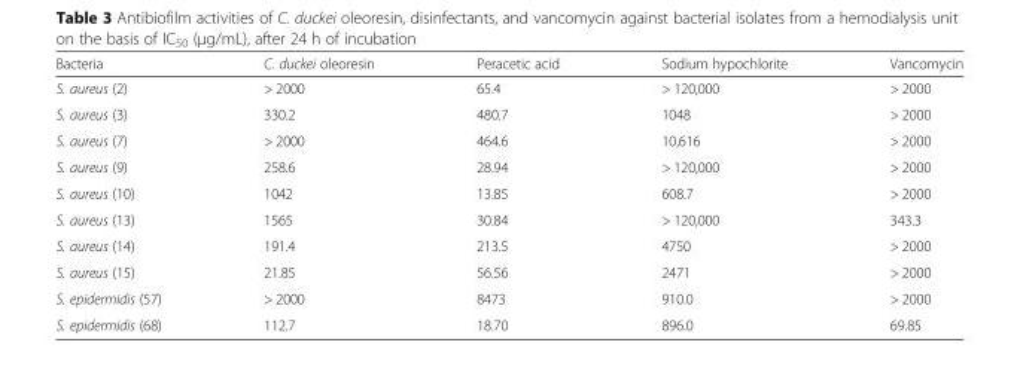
<table><thead><tr><td>Bacteria</td><td>C. duckei oleoresin</td><td>Peracetic acid</td><td>Sodium hypochlorite</td><td>Vancomycin</td></tr></thead><tbody><tr><td>S. aureus (2)</td><td>&gt; 2000</td><td>65.4</td><td>&gt; 120,000</td><td>&gt; 2000</td></tr><tr><td>S. aureus (3)</td><td>330.2</td><td>480.7</td><td>1048</td><td>&gt; 2000</td></tr><tr><td>S. aureus (7)</td><td>&gt; 2000</td><td>464.6</td><td>10,616</td><td>&gt; 2000</td></tr><tr><td>S. aureus (9)</td><td>258.6</td><td>28.94</td><td>&gt; 120,000</td><td>&gt; 2000</td></tr><tr><td>S. aureus (10)</td><td>1042</td><td>13.85</td><td>608.7</td><td>&gt; 2000</td></tr><tr><td>S. aureus (13)</td><td>1565</td><td>30.84</td><td>&gt; 120,000</td><td>343.3</td></tr><tr><td>S. aureus (14)</td><td>191.4</td><td>213.5</td><td>4750</td><td>&gt; 2000</td></tr><tr><td>S. aureus (15)</td><td>21.85</td><td>56.56</td><td>2471</td><td>&gt; 2000</td></tr><tr><td>S. epidermidis (57)</td><td>&gt; 2000</td><td>8473</td><td>910.0</td><td>&gt; 2000</td></tr><tr><td>S. epidermidis (68)</td><td>112.7</td><td>18.70</td><td>896.0</td><td>69.85</td></tr></tbody></table>